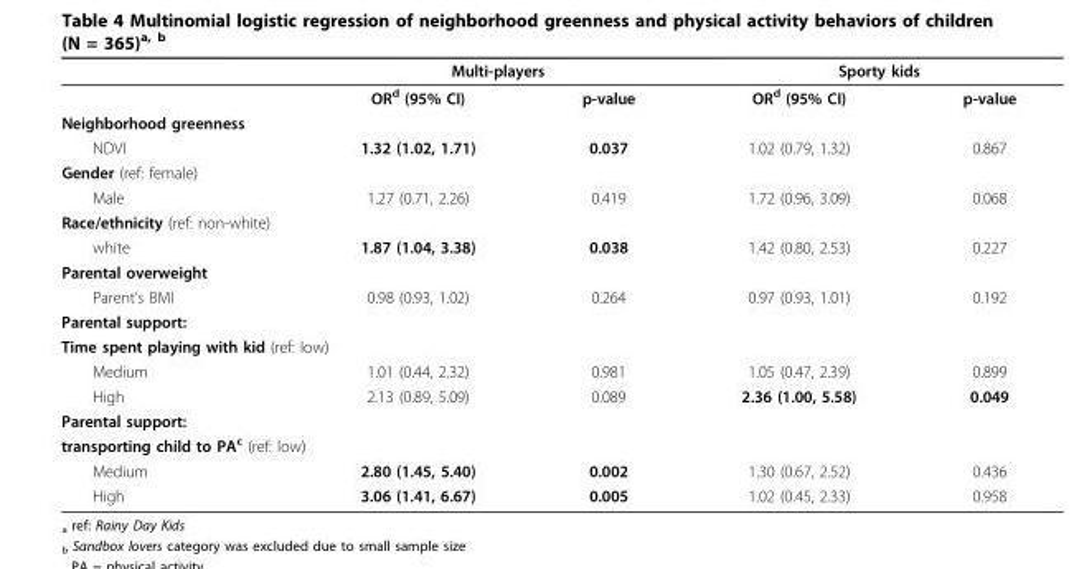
<table><thead><tr><td rowspan="2"></td><td colspan="2">Multi-players</td><td colspan="2">Sporty kids</td></tr><tr><td>OR<sup>d</sup> (95% CI)</td><td>p-value</td><td>OR<sup>d</sup> (95% CI)</td><td>p-value</td></tr></thead><tbody><tr><td colspan="5">Neighborhood greenness</td></tr><tr><td>NDVI</td><td>1.32 (1.02, 1.71)</td><td>0.037</td><td>1.02 (0.79, 1.32)</td><td>0.867</td></tr><tr><td colspan="5">Gender (ref: female)</td></tr><tr><td>Male</td><td>1.27 (0.71, 2.26)</td><td>0.419</td><td>1.72 (0.96, 3.09)</td><td>0.068</td></tr><tr><td colspan="5">Race/ethnicity (ref: non-white)</td></tr><tr><td>white</td><td>1.87 (1.04, 3.38)</td><td>0.038</td><td>1.42 (0.80, 2.53)</td><td>0.227</td></tr><tr><td colspan="5">Parental overweight</td></tr><tr><td>Parent’s BMI</td><td>0.98 (0.93, 1.02)</td><td>0.264</td><td>0.97 (0.93, 1.01)</td><td>0.192</td></tr><tr><td colspan="5">Parental support:</td></tr><tr><td colspan="5">Time spent playing with kid (ref: low)</td></tr><tr><td>Medium</td><td>1.01 (0.44, 2.32)</td><td>0.981</td><td>1.05 (0.47, 2.39)</td><td>0.899</td></tr><tr><td>High</td><td>2.13 (0.89, 5.09)</td><td>0.089</td><td>2.36 (1.00, 5.58)</td><td>0.049</td></tr><tr><td colspan="5">Parental support:</td></tr><tr><td colspan="5">transporting child to PA<sup>c</sup> (ref: low)</td></tr><tr><td>Medium</td><td>2.80 (1.45, 5.40)</td><td>0.002</td><td>1.30 (0.67, 2.52)</td><td>0.436</td></tr><tr><td>High</td><td>3.06 (1.41, 6.67)</td><td>0.005</td><td>1.02 (0.45, 2.33)</td><td>0.958</td></tr></tbody></table>